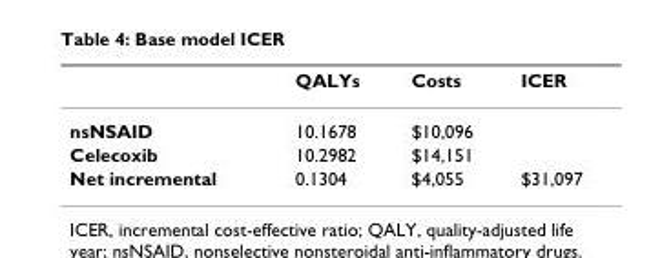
<table><thead><tr><td></td><td>QALYs</td><td>Costs</td><td>ICER</td></tr></thead><tbody><tr><td>nsNSAID</td><td>10.1678</td><td>$10,096</td><td></td></tr><tr><td>Celecoxib</td><td>10.2982</td><td>$14,151</td><td></td></tr><tr><td>Net incremental</td><td>0.1304</td><td>$4,055</td><td>$31,097</td></tr></tbody></table>